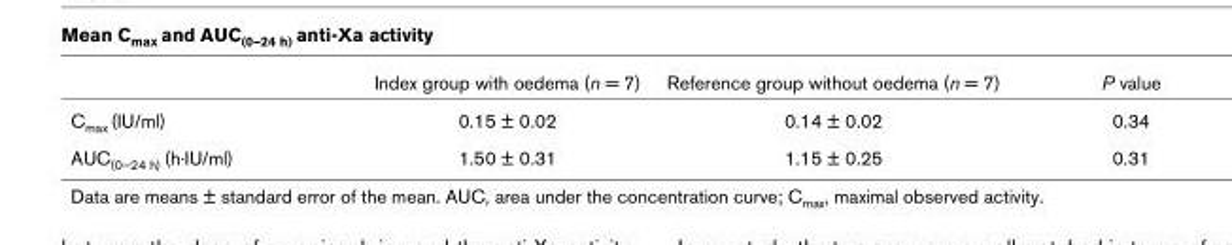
<table><thead><tr><td></td><td>Index group with oedema (n = 7)</td><td>Reference group without oedema (n = 7)</td><td>P value</td></tr></thead><tbody><tr><td>Cmax (IU/ml)</td><td>0.15 ± 0.02</td><td>0.14 ± 0.02</td><td>0.34</td></tr><tr><td>AUC(0–24 h) (h·IU/ml)</td><td>1.50 ± 0.31</td><td>1.15 ± 0.25</td><td>0.31</td></tr></tbody></table>